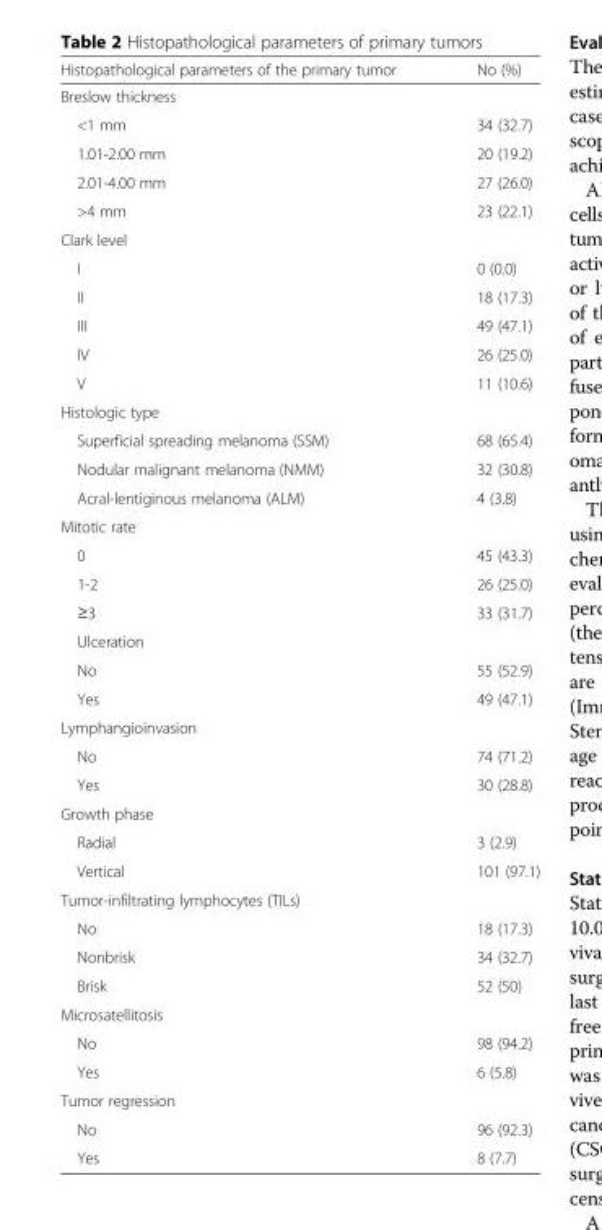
<table><thead><tr><td>Histopathological parameters of the primary tumor</td><td>No (%)</td></tr></thead><tbody><tr><td colspan="2">Breslow thickness</td></tr><tr><td>&lt;1 mm</td><td>34 (32.7)</td></tr><tr><td>1.01-2.00 mm</td><td>20 (19.2)</td></tr><tr><td>2.01-4.00 mm</td><td>27 (26.0)</td></tr><tr><td>&gt;4 mm</td><td>23 (22.1)</td></tr><tr><td colspan="2">Clark level</td></tr><tr><td>I</td><td>0 (0.0)</td></tr><tr><td>II</td><td>18 (17.3)</td></tr><tr><td>III</td><td>49 (47.1)</td></tr><tr><td>IV</td><td>26 (25.0)</td></tr><tr><td>V</td><td>11 (10.6)</td></tr><tr><td colspan="2">Histologic type</td></tr><tr><td>Superficial spreading melanoma (SSM)</td><td>68 (65.4)</td></tr><tr><td>Nodular malignant melanoma (NMM)</td><td>32 (30.8)</td></tr><tr><td>Acral-lentiginous melanoma (ALM)</td><td>4 (3.8)</td></tr><tr><td colspan="2">Mitotic rate</td></tr><tr><td>0</td><td>45 (43.3)</td></tr><tr><td>1-2</td><td>26 (25.0)</td></tr><tr><td>≥3</td><td>33 (31.7)</td></tr><tr><td colspan="2">Ulceration</td></tr><tr><td>No</td><td>55 (52.9)</td></tr><tr><td>Yes</td><td>49 (47.1)</td></tr><tr><td colspan="2">Lymphangioinvasion</td></tr><tr><td>No</td><td>74 (71.2)</td></tr><tr><td>Yes</td><td>30 (28.8)</td></tr><tr><td colspan="2">Growth phase</td></tr><tr><td>Radial</td><td>3 (2.9)</td></tr><tr><td>Vertical</td><td>101 (97.1)</td></tr><tr><td colspan="2">Tumor-infiltrating lymphocytes (TILs)</td></tr><tr><td>No</td><td>18 (17.3)</td></tr><tr><td>Nonbrisk</td><td>34 (32.7)</td></tr><tr><td>Brisk</td><td>52 (50)</td></tr><tr><td colspan="2">Microsatellitosis</td></tr><tr><td>No</td><td>98 (94.2)</td></tr><tr><td>Yes</td><td>6 (5.8)</td></tr><tr><td colspan="2">Tumor regression</td></tr><tr><td>No</td><td>96 (92.3)</td></tr><tr><td>Yes</td><td>8 (7.7)</td></tr></tbody></table>